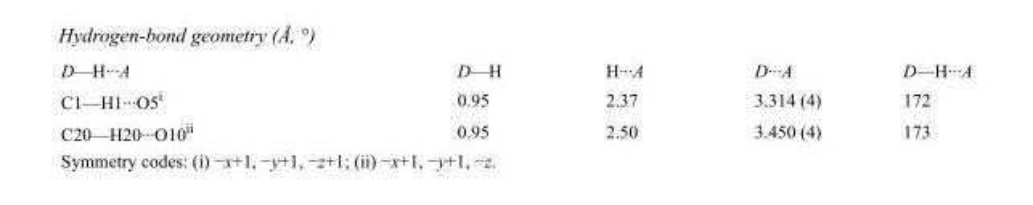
<table><tbody><tr><td>D—H···A</td><td>D—H</td><td>H···A</td><td>D···A</td><td>D—H···A</td></tr><tr><td>C1—H1···O5<sup>i</sup></td><td>0.95</td><td>2.37</td><td>3.314 (4)</td><td>172</td></tr><tr><td>C20—H20···O10<sup>ii</sup></td><td>0.95</td><td>2.50</td><td>3.450 (4)</td><td>173</td></tr></tbody></table>